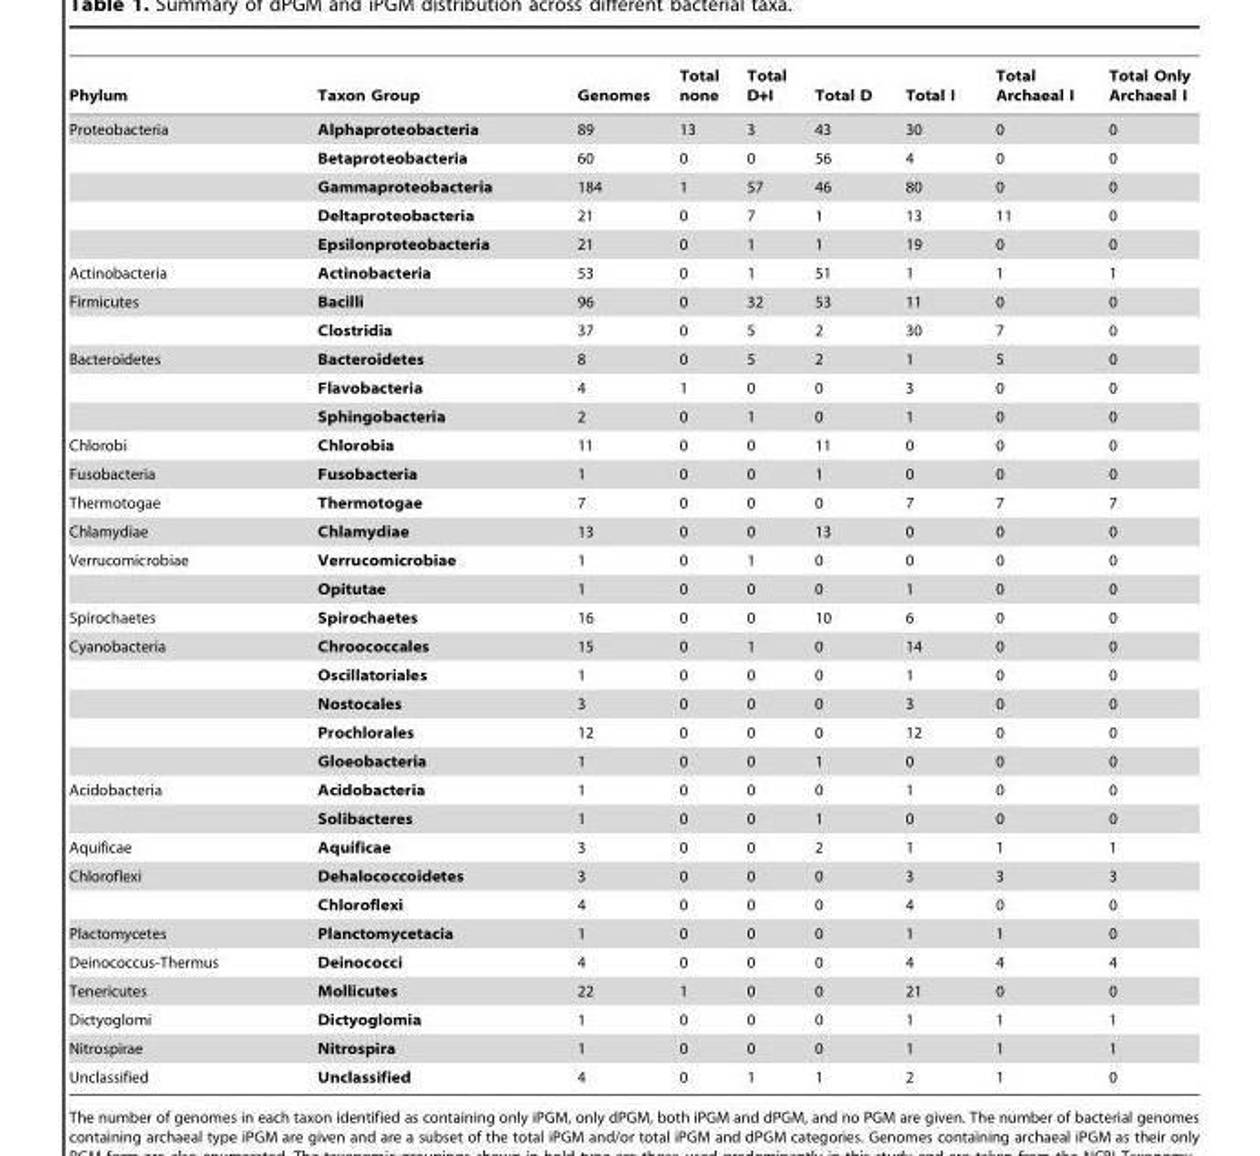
<table><thead><tr><td>Phylum</td><td>Taxon Group</td><td>Genomes</td><td>Total none</td><td>Total D+I</td><td>Total D</td><td>Total I</td><td>Total Archaeal I</td><td>Total Only Archaeal I</td></tr></thead><tbody><tr><td rowspan="5">Proteobacteria</td><td>Alphaproteobacteria</td><td>89</td><td>13</td><td>3</td><td>43</td><td>30</td><td>0</td><td>0</td></tr><tr><td>Betaproteobacteria</td><td>60</td><td>0</td><td>0</td><td>56</td><td>4</td><td>0</td><td>0</td></tr><tr><td>Gammaproteobacteria</td><td>184</td><td>1</td><td>57</td><td>46</td><td>80</td><td>0</td><td>0</td></tr><tr><td>Deltaproteobacteria</td><td>21</td><td>0</td><td>7</td><td>1</td><td>13</td><td>11</td><td>0</td></tr><tr><td>Epsilonproteobacteria</td><td>21</td><td>0</td><td>1</td><td>1</td><td>19</td><td>0</td><td>0</td></tr><tr><td>Actinobacteria</td><td>Actinobacteria</td><td>53</td><td>0</td><td>1</td><td>51</td><td>1</td><td>1</td><td>1</td></tr><tr><td rowspan="2">Firmicutes</td><td>Bacilli</td><td>96</td><td>0</td><td>32</td><td>53</td><td>11</td><td>0</td><td>0</td></tr><tr><td>Clostridia</td><td>37</td><td>0</td><td>5</td><td>2</td><td>30</td><td>7</td><td>0</td></tr><tr><td rowspan="3">Bacteroidetes</td><td>Bacteroidetes</td><td>8</td><td>0</td><td>5</td><td>2</td><td>1</td><td>5</td><td>0</td></tr><tr><td>Flavobacteria</td><td>4</td><td>1</td><td>0</td><td>0</td><td>3</td><td>0</td><td>0</td></tr><tr><td>Sphingobacteria</td><td>2</td><td>0</td><td>1</td><td>0</td><td>1</td><td>0</td><td>0</td></tr><tr><td>Chlorobi</td><td>Chlorobia</td><td>11</td><td>0</td><td>0</td><td>11</td><td>0</td><td>0</td><td>0</td></tr><tr><td>Fusobacteria</td><td>Fusobacteria</td><td>1</td><td>0</td><td>0</td><td>1</td><td>0</td><td>0</td><td>0</td></tr><tr><td>Thermotogae</td><td>Thermotogae</td><td>7</td><td>0</td><td>0</td><td>0</td><td>7</td><td>7</td><td>7</td></tr><tr><td>Chlamydiae</td><td>Chlamydiae</td><td>13</td><td>0</td><td>0</td><td>13</td><td>0</td><td>0</td><td>0</td></tr><tr><td rowspan="2">Verrucomicrobiae</td><td>Verrucomicrobiae</td><td>1</td><td>0</td><td>1</td><td>0</td><td>0</td><td>0</td><td>0</td></tr><tr><td>Opitutae</td><td>1</td><td>0</td><td>0</td><td>0</td><td>1</td><td>0</td><td>0</td></tr><tr><td>Spirochaetes</td><td>Spirochaetes</td><td>16</td><td>0</td><td>0</td><td>10</td><td>6</td><td>0</td><td>0</td></tr><tr><td rowspan="5">Cyanobacteria</td><td>Chroococcales</td><td>15</td><td>0</td><td>1</td><td>0</td><td>14</td><td>0</td><td>0</td></tr><tr><td>Oscillatoriales</td><td>1</td><td>0</td><td>0</td><td>0</td><td>1</td><td>0</td><td>0</td></tr><tr><td>Nostocales</td><td>3</td><td>0</td><td>0</td><td>0</td><td>3</td><td>0</td><td>0</td></tr><tr><td>Prochlorales</td><td>12</td><td>0</td><td>0</td><td>0</td><td>12</td><td>0</td><td>0</td></tr><tr><td>Gloeobacteria</td><td>1</td><td>0</td><td>0</td><td>1</td><td>0</td><td>0</td><td>0</td></tr><tr><td rowspan="2">Acidobacteria</td><td>Acidobacteria</td><td>1</td><td>0</td><td>0</td><td>0</td><td>1</td><td>0</td><td>0</td></tr><tr><td>Solibacteres</td><td>1</td><td>0</td><td>0</td><td>1</td><td>0</td><td>0</td><td>0</td></tr><tr><td>Aquificae</td><td>Aquificae</td><td>3</td><td>0</td><td>0</td><td>2</td><td>1</td><td>1</td><td>1</td></tr><tr><td rowspan="2">Chloroflexi</td><td>Dehalococcoidetes</td><td>3</td><td>0</td><td>0</td><td>0</td><td>3</td><td>3</td><td>3</td></tr><tr><td>Chloroflexi</td><td>4</td><td>0</td><td>0</td><td>0</td><td>4</td><td>0</td><td>0</td></tr><tr><td>Plactomycetes</td><td>Planctomycetacia</td><td>1</td><td>0</td><td>0</td><td>0</td><td>1</td><td>1</td><td>0</td></tr><tr><td>Deinococcus-Thermus</td><td>Deinococci</td><td>4</td><td>0</td><td>0</td><td>0</td><td>4</td><td>4</td><td>4</td></tr><tr><td>Tenericutes</td><td>Mollicutes</td><td>22</td><td>1</td><td>0</td><td>0</td><td>21</td><td>0</td><td>0</td></tr><tr><td>Dictyoglomi</td><td>Dictyoglomia</td><td>1</td><td>0</td><td>0</td><td>0</td><td>1</td><td>1</td><td>1</td></tr><tr><td>Nitrospirae</td><td>Nitrospira</td><td>1</td><td>0</td><td>0</td><td>0</td><td>1</td><td>1</td><td>1</td></tr><tr><td>Unclassified</td><td>Unclassified</td><td>4</td><td>0</td><td>1</td><td>1</td><td>2</td><td>1</td><td>0</td></tr></tbody></table>